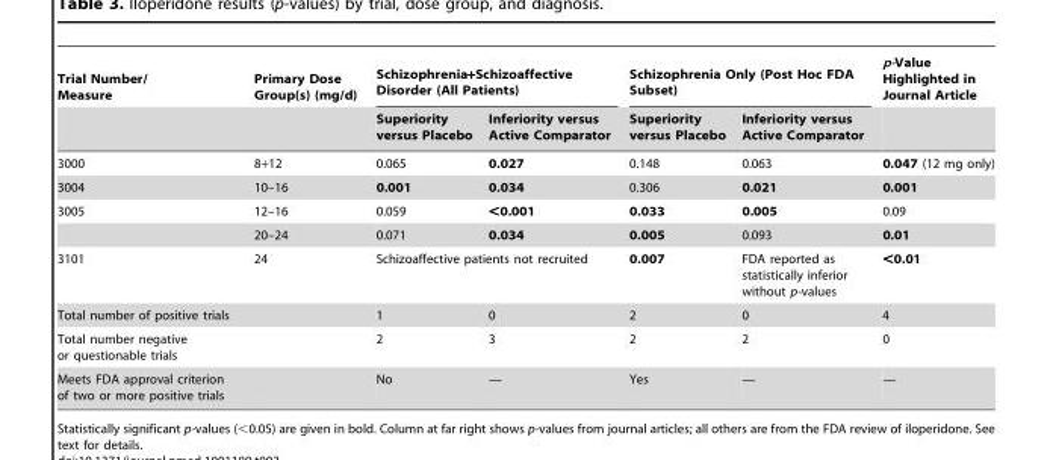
<table><thead><tr><td rowspan="2">Trial Number/ Measure</td><td rowspan="2">Primary Dose Group(s) (mg/d)</td><td colspan="2">Schizophrenia+Schizoaffective Disorder (All Patients)</td><td colspan="2">Schizophrenia Only (Post Hoc FDA Subset)</td><td rowspan="2">p-Value Highlighted in Journal Article</td></tr><tr><td>Superiority versus Placebo</td><td>Inferiority versus Active Comparator</td><td>Superiority versus Placebo</td><td>Inferiority versus Active Comparator</td></tr></thead><tbody><tr><td>3000</td><td>8+12</td><td>0.065</td><td>0.027</td><td>0.148</td><td>0.063</td><td>0.047 (12 mg only)</td></tr><tr><td>3004</td><td>10–16</td><td>0.001</td><td>0.034</td><td>0.306</td><td>0.021</td><td>0.001</td></tr><tr><td rowspan="2">3005</td><td>12–16</td><td>0.059</td><td>&lt;0.001</td><td>0.033</td><td>0.005</td><td>0.09</td></tr><tr><td>20–24</td><td>0.071</td><td>0.034</td><td>0.005</td><td>0.093</td><td>0.01</td></tr><tr><td>3101</td><td>24</td><td colspan="2">Schizoaffective patients not recruited</td><td>0.007</td><td>FDA reported as statistically inferior without p-values</td><td>&lt;0.01</td></tr><tr><td>Total number of positive trials</td><td></td><td>1</td><td>0</td><td>2</td><td>0</td><td>4</td></tr><tr><td>Total number negative or questionable trials</td><td></td><td>2</td><td>3</td><td>2</td><td>2</td><td>0</td></tr><tr><td>Meets FDA approval criterion of two or more positive trials</td><td></td><td>No</td><td>—</td><td>Yes</td><td>—</td><td>—</td></tr></tbody></table>